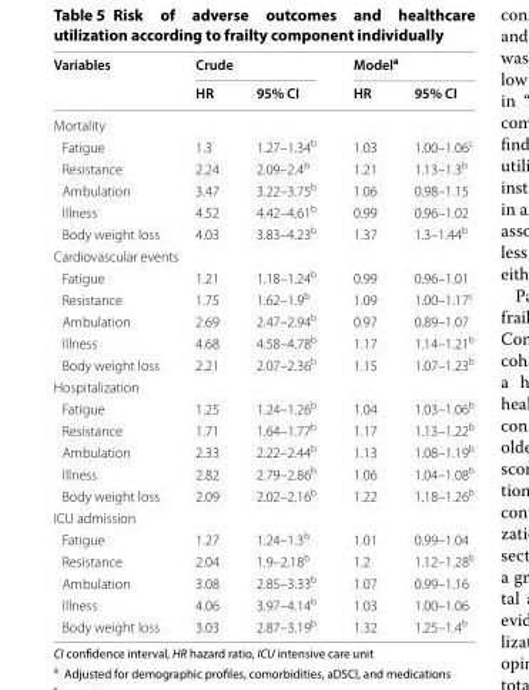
<table><thead><tr><td rowspan="2">Variables</td><td colspan="2">Crude</td><td colspan="2">Model<sup>a</sup></td></tr><tr><td>HR</td><td>95% CI</td><td>HR</td><td>95% CI</td></tr></thead><tbody><tr><td colspan="5">Mortality</td></tr><tr><td>Fatigue</td><td>1.3</td><td>1.27–1.34<sup>b</sup></td><td>1.03</td><td>1.00–1.06<sup>c</sup></td></tr><tr><td>Resistance</td><td>2.24</td><td>2.09–2.4<sup>b</sup></td><td>1.21</td><td>1.13–1.3<sup>b</sup></td></tr><tr><td>Ambulation</td><td>3.47</td><td>3.22–3.75<sup>b</sup></td><td>1.06</td><td>0.98–1.15</td></tr><tr><td>Illness</td><td>4.52</td><td>4.42–4.61<sup>b</sup></td><td>0.99</td><td>0.96–1.02</td></tr><tr><td>Body weight loss</td><td>4.03</td><td>3.83–4.23<sup>b</sup></td><td>1.37</td><td>1.3–1.44<sup>b</sup></td></tr><tr><td colspan="5">Cardiovascular events</td></tr><tr><td>Fatigue</td><td>1.21</td><td>1.18–1.24<sup>b</sup></td><td>0.99</td><td>0.96–1.01</td></tr><tr><td>Resistance</td><td>1.75</td><td>1.62–1.9<sup>b</sup></td><td>1.09</td><td>1.00–1.17<sup>c</sup></td></tr><tr><td>Ambulation</td><td>2.69</td><td>2.47–2.94<sup>b</sup></td><td>0.97</td><td>0.89–1.07</td></tr><tr><td>Illness</td><td>4.68</td><td>4.58–4.78<sup>b</sup></td><td>1.17</td><td>1.14–1.21<sup>b</sup></td></tr><tr><td>Body weight loss</td><td>2.21</td><td>2.07–2.36<sup>b</sup></td><td>1.15</td><td>1.07–1.23<sup>b</sup></td></tr><tr><td colspan="5">Hospitalization</td></tr><tr><td>Fatigue</td><td>1.25</td><td>1.24–1.26<sup>b</sup></td><td>1.04</td><td>1.03–1.06<sup>b</sup></td></tr><tr><td>Resistance</td><td>1.71</td><td>1.64–1.77<sup>b</sup></td><td>1.17</td><td>1.13–1.22<sup>b</sup></td></tr><tr><td>Ambulation</td><td>2.33</td><td>2.22–2.44<sup>b</sup></td><td>1.13</td><td>1.08–1.19<sup>b</sup></td></tr><tr><td>Illness</td><td>2.82</td><td>2.79–2.86<sup>b</sup></td><td>1.06</td><td>1.04–1.08<sup>b</sup></td></tr><tr><td>Body weight loss</td><td>2.09</td><td>2.02–2.16<sup>b</sup></td><td>1.22</td><td>1.18–1.26<sup>b</sup></td></tr><tr><td colspan="5">ICU admission</td></tr><tr><td>Fatigue</td><td>1.27</td><td>1.24–1.3<sup>b</sup></td><td>1.01</td><td>0.99–1.04</td></tr><tr><td>Resistance</td><td>2.04</td><td>1.9–2.18<sup>b</sup></td><td>1.2</td><td>1.12–1.28<sup>b</sup></td></tr><tr><td>Ambulation</td><td>3.08</td><td>2.85–3.33<sup>b</sup></td><td>1.07</td><td>0.99–1.16</td></tr><tr><td>Illness</td><td>4.06</td><td>3.97–4.14<sup>b</sup></td><td>1.03</td><td>1.00–1.06</td></tr><tr><td>Body weight loss</td><td>3.03</td><td>2.87–3.19<sup>b</sup></td><td>1.32</td><td>1.25–1.4<sup>b</sup></td></tr></tbody></table>